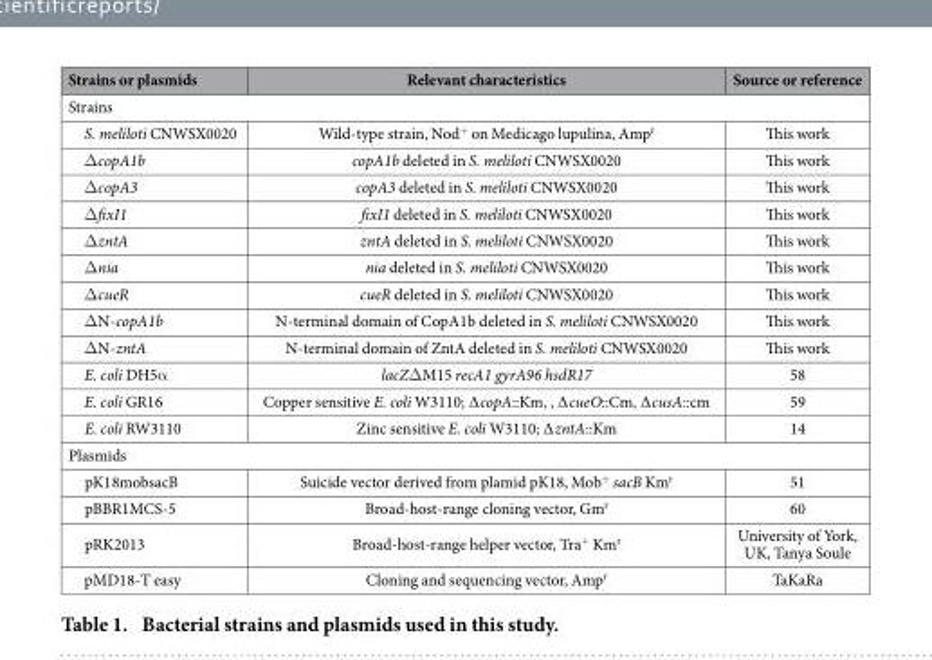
<table><thead><tr><td>Strains or plasmids</td><td>Relevant characteristics</td><td>Source or reference</td></tr></thead><tbody><tr><td colspan="3">Strains</td></tr><tr><td>S. meliloti CNWSX0020</td><td>Wild-type strain, Nod<sup>+</sup> on Medicago lupulina, Amp<sup>r</sup></td><td>This work</td></tr><tr><td>Δ copA1b</td><td>copA1b deleted in S. meliloti CNWSX0020</td><td>This work</td></tr><tr><td>Δ copA3</td><td>copA3 deleted in S. meliloti CNWSX0020</td><td>This work</td></tr><tr><td>Δ fixI1</td><td>fixI1 deleted in S. meliloti CNWSX0020</td><td>This work</td></tr><tr><td>Δ zntA</td><td>zntA deleted in S. meliloti CNWSX0020</td><td>This work</td></tr><tr><td>Δ nia</td><td>nia deleted in S. meliloti CNWSX0020</td><td>This work</td></tr><tr><td>Δ cueR</td><td>cueR deleted in S. meliloti CNWSX0020</td><td>This work</td></tr><tr><td>Δ N-copA1b</td><td>N-terminal domain of CopA1b deleted in S. meliloti CNWSX0020</td><td>This work</td></tr><tr><td>Δ N-zntA</td><td>N-terminal domain of ZntA deleted in S. meliloti CNWSX0020</td><td>This work</td></tr><tr><td>E. coli DH5α</td><td>lacZΔ M15 recA1 gyrA96 hsdR17</td><td>58</td></tr><tr><td>E. coli GR16</td><td>Copper sensitive E. coli W3110; ∆ copA::Km, , ∆ cueO::Cm, ∆ cusA::cm</td><td>59</td></tr><tr><td>E. coli RW3110</td><td>Zinc sensitive E. coli W3110; ∆ zntA::Km</td><td>14</td></tr><tr><td colspan="3">Plasmids</td></tr><tr><td>pK18mobsacB</td><td>Suicide vector derived from plamid pK18, Mob<sup>+</sup> sacB Km<sup>r</sup></td><td>51</td></tr><tr><td>pBBR1MCS-5</td><td>Broad-host-range cloning vector, Gm<sup>r</sup></td><td>60</td></tr><tr><td>pRK2013</td><td>Broad-host-range helper vector, Tra<sup>+</sup> Km<sup>r</sup></td><td>University of York, UK, Tanya Soule</td></tr><tr><td>pMD18-T easy</td><td>Cloning and sequencing vector, Amp<sup>r</sup></td><td>TaKaRa</td></tr></tbody></table>